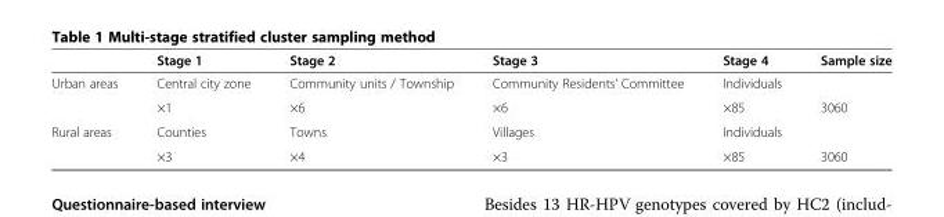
<table><thead><tr><td></td><td>Stage 1</td><td>Stage 2</td><td>Stage 3</td><td>Stage 4</td><td>Sample size</td></tr></thead><tbody><tr><td rowspan="2">Urban areas</td><td>Central city zone</td><td>Community units / Township</td><td>Community Residents’ Committee</td><td>Individuals</td><td></td></tr><tr><td>×1</td><td>×6</td><td>×6</td><td>×85</td><td>3060</td></tr><tr><td rowspan="2">Rural areas</td><td>Counties</td><td>Towns</td><td>Villages</td><td>Individuals</td><td></td></tr><tr><td>×3</td><td>×4</td><td>×3</td><td>×85</td><td>3060</td></tr></tbody></table>